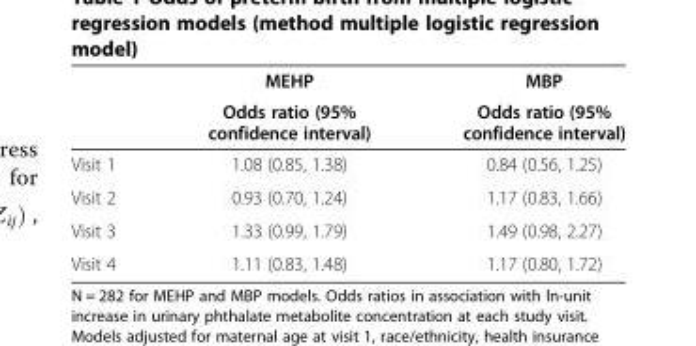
<table><thead><tr><td rowspan="2"></td><td rowspan="2">MEHP Odds ratio (95% confidence interval)</td><td rowspan="2">MBP Odds ratio (95% confidence interval)</td></tr><tr></tr></thead><tbody><tr><td>Visit 1</td><td>1.08 (0.85, 1.38)</td><td>0.84 (0.56, 1.25)</td></tr><tr><td>Visit 2</td><td>0.93 (0.70, 1.24)</td><td>1.17 (0.83, 1.66)</td></tr><tr><td>Visit 3</td><td>1.33 (0.99, 1.79)</td><td>1.49 (0.98, 2.27)</td></tr><tr><td>Visit 4</td><td>1.11 (0.83, 1.48)</td><td>1.17 (0.80, 1.72)</td></tr></tbody></table>